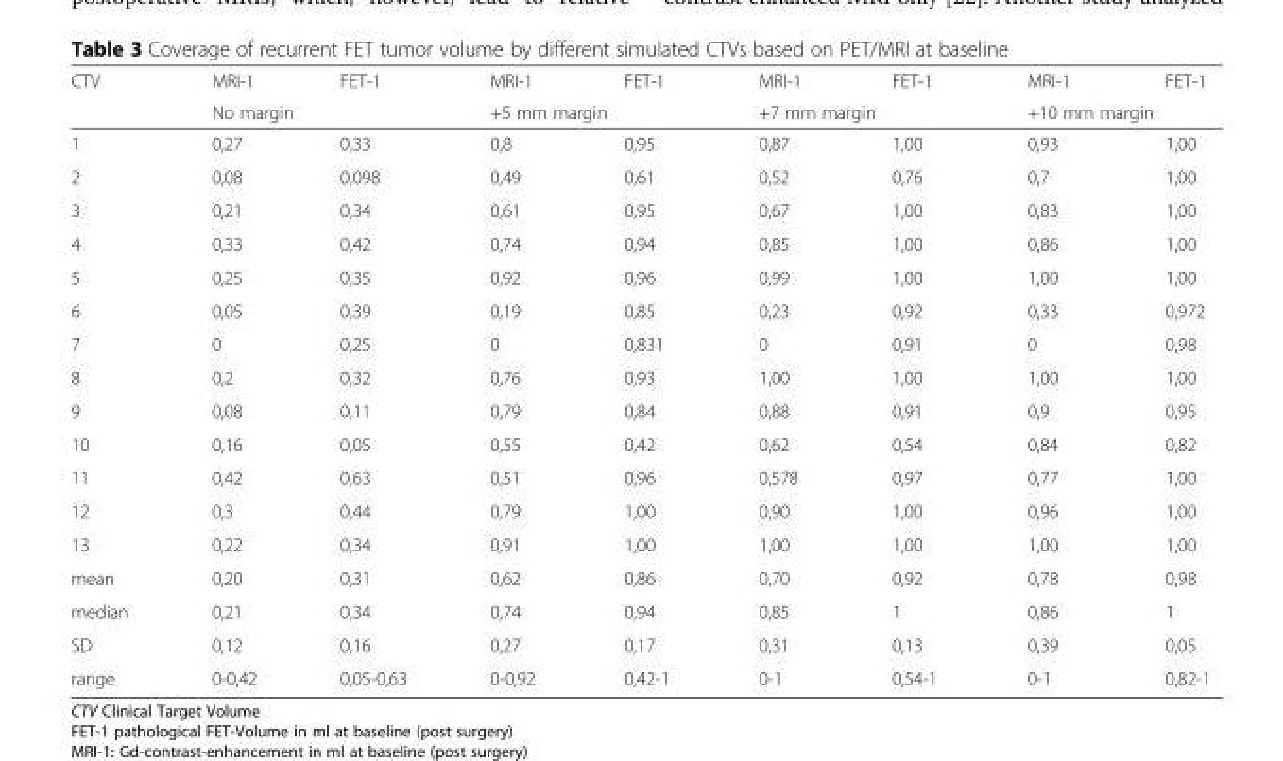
<table><thead><tr><td rowspan="2">CTV</td><td>MRI-1</td><td>FET-1</td><td>MRI-1</td><td>FET-1</td><td>MRI-1</td><td>FET-1</td><td>MRI-1</td><td>FET-1</td></tr><tr><td colspan="2">No margin</td><td colspan="2">+5 mm margin</td><td colspan="2">+7 mm margin</td><td colspan="2">+10 mm margin</td></tr></thead><tbody><tr><td>1</td><td>0,27</td><td>0,33</td><td>0,8</td><td>0,95</td><td>0,87</td><td>1,00</td><td>0,93</td><td>1,00</td></tr><tr><td>2</td><td>0,08</td><td>0,098</td><td>0,49</td><td>0,61</td><td>0,52</td><td>0,76</td><td>0,7</td><td>1,00</td></tr><tr><td>3</td><td>0,21</td><td>0,34</td><td>0,61</td><td>0,95</td><td>0,67</td><td>1,00</td><td>0,83</td><td>1,00</td></tr><tr><td>4</td><td>0,33</td><td>0,42</td><td>0,74</td><td>0,94</td><td>0,85</td><td>1,00</td><td>0,86</td><td>1,00</td></tr><tr><td>5</td><td>0,25</td><td>0,35</td><td>0,92</td><td>0,96</td><td>0,99</td><td>1,00</td><td>1,00</td><td>1,00</td></tr><tr><td>6</td><td>0,05</td><td>0,39</td><td>0,19</td><td>0,85</td><td>0,23</td><td>0,92</td><td>0,33</td><td>0,972</td></tr><tr><td>7</td><td>0</td><td>0,25</td><td>0</td><td>0,831</td><td>0</td><td>0,91</td><td>0</td><td>0,98</td></tr><tr><td>8</td><td>0,2</td><td>0,32</td><td>0,76</td><td>0,93</td><td>1,00</td><td>1,00</td><td>1,00</td><td>1,00</td></tr><tr><td>9</td><td>0,08</td><td>0,11</td><td>0,79</td><td>0,84</td><td>0,88</td><td>0,91</td><td>0,9</td><td>0,95</td></tr><tr><td>10</td><td>0,16</td><td>0,05</td><td>0,55</td><td>0,42</td><td>0,62</td><td>0,54</td><td>0,84</td><td>0,82</td></tr><tr><td>11</td><td>0,42</td><td>0,63</td><td>0,51</td><td>0,96</td><td>0,578</td><td>0,97</td><td>0,77</td><td>1,00</td></tr><tr><td>12</td><td>0,3</td><td>0,44</td><td>0,79</td><td>1,00</td><td>0,90</td><td>1,00</td><td>0,96</td><td>1,00</td></tr><tr><td>13</td><td>0,22</td><td>0,34</td><td>0,91</td><td>1,00</td><td>1,00</td><td>1,00</td><td>1,00</td><td>1,00</td></tr><tr><td>mean</td><td>0,20</td><td>0,31</td><td>0,62</td><td>0,86</td><td>0,70</td><td>0,92</td><td>0,78</td><td>0,98</td></tr><tr><td>median</td><td>0,21</td><td>0,34</td><td>0,74</td><td>0,94</td><td>0,85</td><td>1</td><td>0,86</td><td>1</td></tr><tr><td>SD</td><td>0,12</td><td>0,16</td><td>0,27</td><td>0,17</td><td>0,31</td><td>0,13</td><td>0,39</td><td>0,05</td></tr><tr><td>range</td><td>0-0,42</td><td>0,05-0,63</td><td>0-0,92</td><td>0,42-1</td><td>0-1</td><td>0,54-1</td><td>0-1</td><td>0,82-1</td></tr></tbody></table>